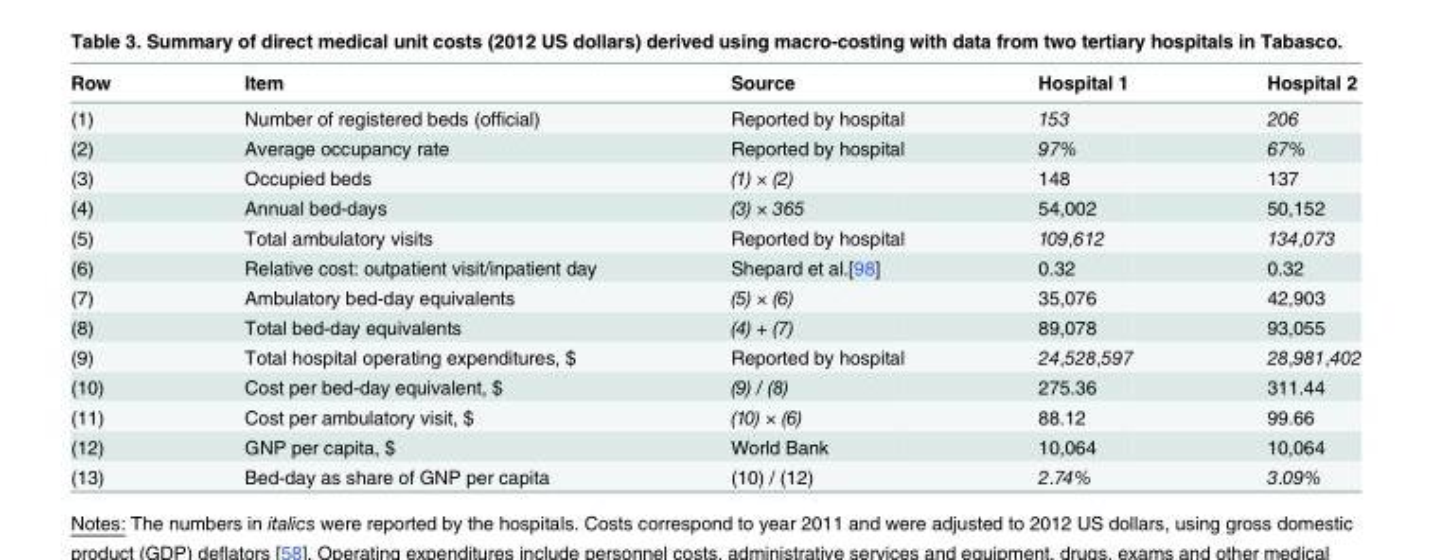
<table><thead><tr><td>Row</td><td>Item</td><td>Source</td><td>Hospital 1</td><td>Hospital 2</td></tr></thead><tbody><tr><td>(1)</td><td>Number of registered beds (official)</td><td>Reported by hospital</td><td>153</td><td>206</td></tr><tr><td>(2)</td><td>Average occupancy rate</td><td>Reported by hospital</td><td>97%</td><td>67%</td></tr><tr><td>(3)</td><td>Occupied beds</td><td>(1) × (2)</td><td>148</td><td>137</td></tr><tr><td>(4)</td><td>Annual bed-days</td><td>(3) × 365</td><td>54,002</td><td>50,152</td></tr><tr><td>(5)</td><td>Total ambulatory visits</td><td>Reported by hospital</td><td>109,612</td><td>134,073</td></tr><tr><td>(6)</td><td>Relative cost: outpatient visit/inpatient day</td><td>Shepard et al.[98]</td><td>0.32</td><td>0.32</td></tr><tr><td>(7)</td><td>Ambulatory bed-day equivalents</td><td>(5) × (6)</td><td>35,076</td><td>42,903</td></tr><tr><td>(8)</td><td>Total bed-day equivalents</td><td>(4) + (7)</td><td>89,078</td><td>93,055</td></tr><tr><td>(9)</td><td>Total hospital operating expenditures, $</td><td>Reported by hospital</td><td>24,528,597</td><td>28,981,402</td></tr><tr><td>(10)</td><td>Cost per bed-day equivalent, $</td><td>(9) / (8)</td><td>275.36</td><td>311.44</td></tr><tr><td>(11)</td><td>Cost per ambulatory visit, $</td><td>(10) × (6)</td><td>88.12</td><td>99.66</td></tr><tr><td>(12)</td><td>GNP per capita, $</td><td>World Bank</td><td>10,064</td><td>10,064</td></tr><tr><td>(13)</td><td>Bed-day as share of GNP per capita</td><td>(10) / (12)</td><td>2.74%</td><td>3.09%</td></tr></tbody></table>